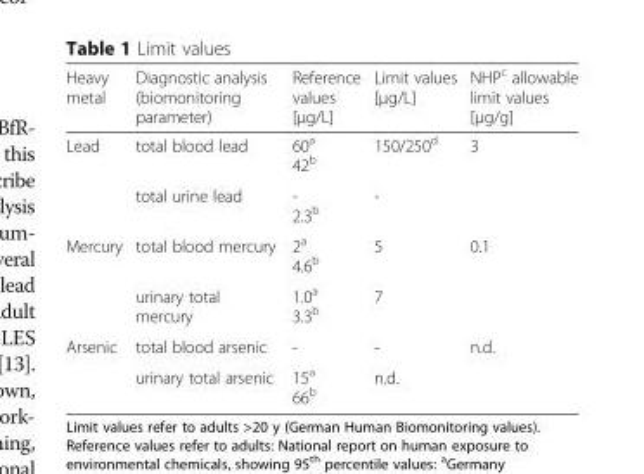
<table><thead><tr><td>Heavy metal</td><td>Diagnostic analysis (biomonitoring parameter)</td><td>Reference values [μg/L]</td><td>Limit values [μg/L]</td><td>NHP<sup>c</sup> allowable limit values [μg/g]</td></tr></thead><tbody><tr><td rowspan="2">Lead</td><td>total blood lead</td><td>60<sup>a</sup> 42<sup>b</sup></td><td>150/250<sup>d</sup></td><td rowspan="2">3</td></tr><tr><td>total urine lead</td><td>- 2.3<sup>b</sup></td><td>-</td></tr><tr><td rowspan="2">Mercury</td><td>total blood mercury</td><td>2<sup>a</sup> 4.6<sup>b</sup></td><td>5</td><td rowspan="2">0.1</td></tr><tr><td>urinary total mercury</td><td>1.0<sup>a</sup> 3.3<sup>b</sup></td><td>7</td></tr><tr><td rowspan="2">Arsenic</td><td>total blood arsenic</td><td>-</td><td>-</td><td rowspan="2">n.d.</td></tr><tr><td>urinary total arsenic</td><td>15<sup>a</sup> 66<sup>b</sup></td><td>n.d.</td></tr></tbody></table>